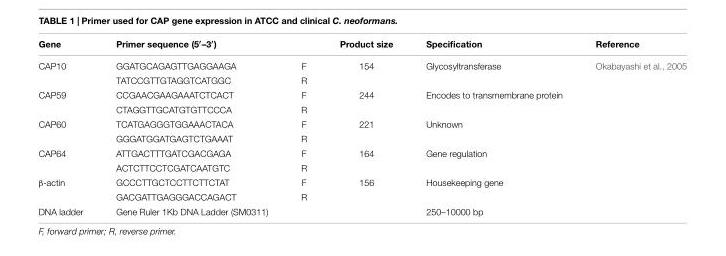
<table><thead><tr><td rowspan="2">Gene CAP10</td><td colspan="2">Primer sequence (5′–3′)</td><td rowspan="2">Product size 154</td><td rowspan="2">Specification Glycosyltransferase</td><td rowspan="2">Reference Okabayashi et al., 2005</td></tr><tr><td>GGATGCAGAGTTGAGGAAGA</td><td>F</td></tr></thead><tbody><tr><td></td><td>TATCCGTTGTAGGTCATGGC</td><td>R</td><td></td><td></td><td></td></tr><tr><td rowspan="2">CAP59</td><td>CCGAACGAAGAAATCTCACT</td><td>F</td><td>244</td><td>Encodes to transmembrane protein</td><td></td></tr><tr><td>CTAGGTTGCATGTGTTCCCA</td><td>R</td><td></td><td></td><td></td></tr><tr><td rowspan="2">CAP60</td><td>TCATGAGGGTGGAAACTACA</td><td>F</td><td>221</td><td>Unknown</td><td></td></tr><tr><td>GGGATGGATGAGTCTGAAAT</td><td>R</td><td></td><td></td><td></td></tr><tr><td rowspan="2">CAP64</td><td>ATTGACTTTGATCGACGAGA</td><td>F</td><td>164</td><td>Gene regulation</td><td></td></tr><tr><td>ACTCTTCCTCGATCAATGTC</td><td>R</td><td></td><td></td><td></td></tr><tr><td rowspan="2">β-actin</td><td>GCCCTTGCTCCTTCTTCTAT</td><td>F</td><td>156</td><td>Housekeeping gene</td><td></td></tr><tr><td>GACGATTGAGGGACCAGACT</td><td>R</td><td></td><td></td><td></td></tr><tr><td>DNA ladder</td><td>Gene Ruler 1Kb DNA Ladder (SM0311)</td><td></td><td></td><td>250–10000 bp</td><td></td></tr></tbody></table>